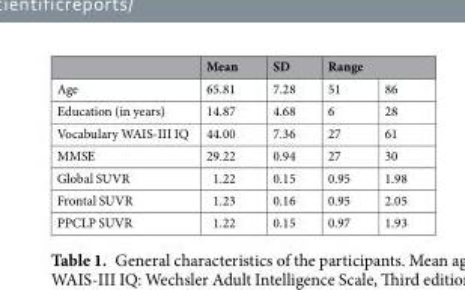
<table><thead><tr><td rowspan="2">Age</td><td rowspan="2">Mean 65.81</td><td rowspan="2">SD 7.28</td><td colspan="2">Range</td></tr><tr><td>51</td><td>86</td></tr></thead><tbody><tr><td>Education (in years)</td><td>14.87</td><td>4.68</td><td>6</td><td>28</td></tr><tr><td>Vocabulary WAIS-III IQ</td><td>44.00</td><td>7.36</td><td>27</td><td>61</td></tr><tr><td>MMSE</td><td>29.22</td><td>0.94</td><td>27</td><td>30</td></tr><tr><td>Global SUVR</td><td>1.22</td><td>0.15</td><td>0.95</td><td>1.98</td></tr><tr><td>Frontal SUVR</td><td>1.23</td><td>0.16</td><td>0.95</td><td>2.05</td></tr><tr><td>PPCLP SUVR</td><td>1.22</td><td>0.15</td><td>0.97</td><td>1.93</td></tr></tbody></table>